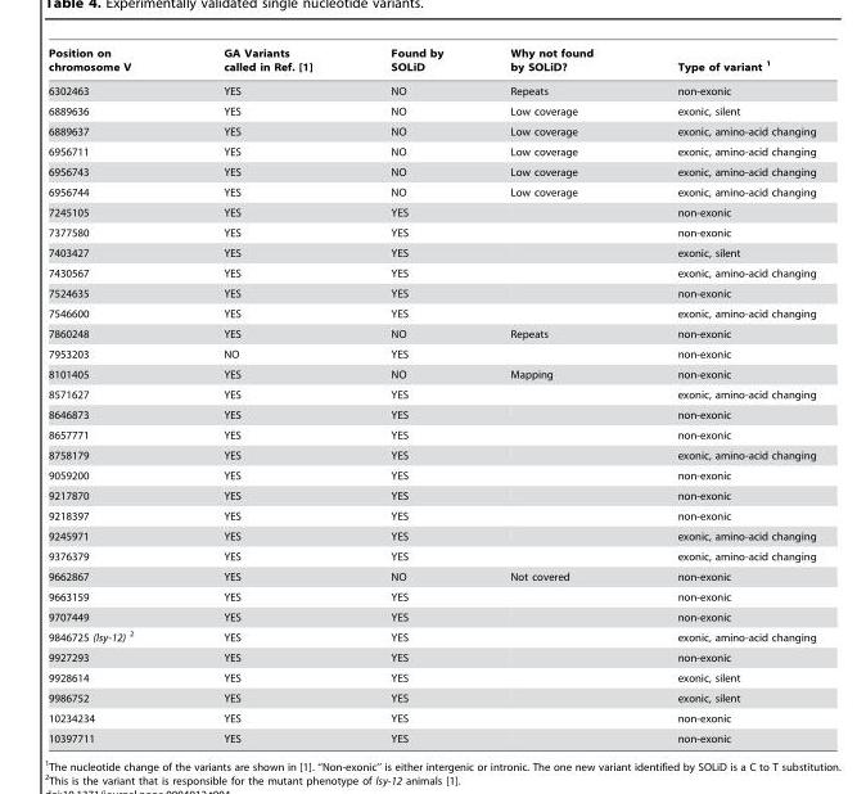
<table><thead><tr><td>Position on chromosome V</td><td>GA Variants called in Ref. [1]</td><td>Found by SOLiD</td><td>Why not found by SOLiD?</td><td>Type of variant 1</td></tr></thead><tbody><tr><td>6302463</td><td>YES</td><td>NO</td><td>Repeats</td><td>non-exonic</td></tr><tr><td>6889636</td><td>YES</td><td>NO</td><td>Low coverage</td><td>exonic, silent</td></tr><tr><td>6889637</td><td>YES</td><td>NO</td><td>Low coverage</td><td>exonic, amino-acid changing</td></tr><tr><td>6956711</td><td>YES</td><td>NO</td><td>Low coverage</td><td>exonic, amino-acid changing</td></tr><tr><td>6956743</td><td>YES</td><td>NO</td><td>Low coverage</td><td>exonic, amino-acid changing</td></tr><tr><td>6956744</td><td>YES</td><td>NO</td><td>Low coverage</td><td>exonic, amino-acid changing</td></tr><tr><td>7245105</td><td>YES</td><td>YES</td><td></td><td>non-exonic</td></tr><tr><td>7377580</td><td>YES</td><td>YES</td><td></td><td>non-exonic</td></tr><tr><td>7403427</td><td>YES</td><td>YES</td><td></td><td>exonic, silent</td></tr><tr><td>7430567</td><td>YES</td><td>YES</td><td></td><td>exonic, amino-acid changing</td></tr><tr><td>7524635</td><td>YES</td><td>YES</td><td></td><td>non-exonic</td></tr><tr><td>7546600</td><td>YES</td><td>YES</td><td></td><td>exonic, amino-acid changing</td></tr><tr><td>7860248</td><td>YES</td><td>NO</td><td>Repeats</td><td>non-exonic</td></tr><tr><td>7953203</td><td>NO</td><td>YES</td><td></td><td>non-exonic</td></tr><tr><td>8101405</td><td>YES</td><td>NO</td><td>Mapping</td><td>non-exonic</td></tr><tr><td>8571627</td><td>YES</td><td>YES</td><td></td><td>exonic, amino-acid changing</td></tr><tr><td>8646873</td><td>YES</td><td>YES</td><td></td><td>non-exonic</td></tr><tr><td>8657771</td><td>YES</td><td>YES</td><td></td><td>non-exonic</td></tr><tr><td>8758179</td><td>YES</td><td>YES</td><td></td><td>exonic, amino-acid changing</td></tr><tr><td>9059200</td><td>YES</td><td>YES</td><td></td><td>non-exonic</td></tr><tr><td>9217870</td><td>YES</td><td>YES</td><td></td><td>non-exonic</td></tr><tr><td>9218397</td><td>YES</td><td>YES</td><td></td><td>non-exonic</td></tr><tr><td>9245971</td><td>YES</td><td>YES</td><td></td><td>exonic, amino-acid changing</td></tr><tr><td>9376379</td><td>YES</td><td>YES</td><td></td><td>exonic, amino-acid changing</td></tr><tr><td>9662867</td><td>YES</td><td>NO</td><td>Not covered</td><td>non-exonic</td></tr><tr><td>9663159</td><td>YES</td><td>YES</td><td></td><td>non-exonic</td></tr><tr><td>9707449</td><td>YES</td><td>YES</td><td></td><td>non-exonic</td></tr><tr><td>9846725 (lsy-12) 2</td><td>YES</td><td>YES</td><td></td><td>exonic, amino-acid changing</td></tr><tr><td>9927293</td><td>YES</td><td>YES</td><td></td><td>non-exonic</td></tr><tr><td>9928614</td><td>YES</td><td>YES</td><td></td><td>exonic, silent</td></tr><tr><td>9986752</td><td>YES</td><td>YES</td><td></td><td>exonic, silent</td></tr><tr><td>10234234</td><td>YES</td><td>YES</td><td></td><td>non-exonic</td></tr><tr><td>10397711</td><td>YES</td><td>YES</td><td></td><td>non-exonic</td></tr></tbody></table>